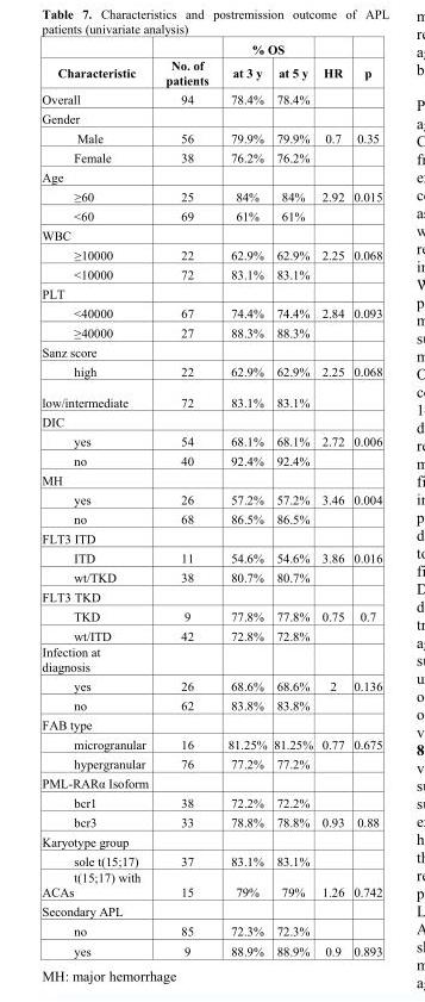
<table><thead><tr><td rowspan="2">Characteristic</td><td rowspan="2">No. of patients</td><td colspan="2">% OS</td><td rowspan="2">HR</td><td rowspan="2">p</td></tr><tr><td>at 3 y</td><td>at 5 y</td></tr></thead><tbody><tr><td>Overall</td><td>94</td><td>78.4%</td><td>78.4%</td><td></td><td></td></tr><tr><td colspan="6">Gender</td></tr><tr><td>Male</td><td>56</td><td>79.9%</td><td>79.9%</td><td>0.7</td><td>0.35</td></tr><tr><td>Female</td><td>38</td><td>76.2%</td><td>76.2%</td><td></td><td></td></tr><tr><td colspan="6">Age</td></tr><tr><td>≥60</td><td>25</td><td>84%</td><td>84%</td><td>2.92</td><td>0.015</td></tr><tr><td>&lt;60</td><td>69</td><td>61%</td><td>61%</td><td></td><td></td></tr><tr><td colspan="6">WBC</td></tr><tr><td>≥10000</td><td>22</td><td>62.9%</td><td>62.9%</td><td>2.25</td><td>0.068</td></tr><tr><td>&lt;10000</td><td>72</td><td>83.1%</td><td>83.1%</td><td></td><td></td></tr><tr><td colspan="6">PLT</td></tr><tr><td>&lt;40000</td><td>67</td><td>74.4%</td><td>74.4%</td><td>2.84</td><td>0.093</td></tr><tr><td>≥40000</td><td>27</td><td>88.3%</td><td>88.3%</td><td></td><td></td></tr><tr><td colspan="6">Sanz score</td></tr><tr><td>high</td><td>22</td><td>62.9%</td><td>62.9%</td><td>2.25</td><td>0.068</td></tr><tr><td>low/intermediate</td><td>72</td><td>83.1%</td><td>83.1%</td><td></td><td></td></tr><tr><td colspan="6">DIC</td></tr><tr><td>yes</td><td>54</td><td>68.1%</td><td>68.1%</td><td>2.72</td><td>0.006</td></tr><tr><td>no</td><td>40</td><td>92.4%</td><td>92.4%</td><td></td><td></td></tr><tr><td colspan="6">MH</td></tr><tr><td>yes</td><td>26</td><td>57.2%</td><td>57.2%</td><td>3.46</td><td>0.004</td></tr><tr><td>no</td><td>68</td><td>86.5%</td><td>86.5%</td><td></td><td></td></tr><tr><td colspan="6">FLT3 ITD</td></tr><tr><td>ITD</td><td>11</td><td>54.6%</td><td>54.6%</td><td>3.86</td><td>0.016</td></tr><tr><td>wt/TKD</td><td>38</td><td>80.7%</td><td>80.7%</td><td></td><td></td></tr><tr><td colspan="6">FLT3 TKD</td></tr><tr><td>TKD</td><td>9</td><td>77.8%</td><td>77.8%</td><td>0.75</td><td>0.7</td></tr><tr><td>wt/ITD</td><td>42</td><td>72.8%</td><td>72.8%</td><td></td><td></td></tr><tr><td colspan="6">Infection at diagnosis</td></tr><tr><td>yes</td><td>26</td><td>68.6%</td><td>68.6%</td><td>2</td><td>0.136</td></tr><tr><td>no</td><td>62</td><td>83.8%</td><td>83.8%</td><td></td><td></td></tr><tr><td colspan="6">FAB type</td></tr><tr><td>microgranular</td><td>16</td><td>81.25%</td><td>81.25%</td><td>0.77</td><td>0.675</td></tr><tr><td>hypergranular</td><td>76</td><td>77.2%</td><td>77.2%</td><td></td><td></td></tr><tr><td colspan="6">PML-RARα Isoform</td></tr><tr><td>bcr1</td><td>38</td><td>72.2%</td><td>72.2%</td><td></td><td></td></tr><tr><td>bcr3</td><td>33</td><td>78.8%</td><td>78.8%</td><td>0.93</td><td>0.88</td></tr><tr><td colspan="6">Karyotype group</td></tr><tr><td>sole t(15;17)</td><td>37</td><td>83.1%</td><td>83.1%</td><td></td><td></td></tr><tr><td>t(15;17) with ACAs</td><td>15</td><td>79%</td><td>79%</td><td>1.26</td><td>0.742</td></tr><tr><td colspan="6">Secondary APL</td></tr><tr><td>no</td><td>85</td><td>72.3%</td><td>72.3%</td><td></td><td></td></tr><tr><td>yes</td><td>9</td><td>88.9%</td><td>88.9%</td><td>0.9</td><td>0.893</td></tr></tbody></table>